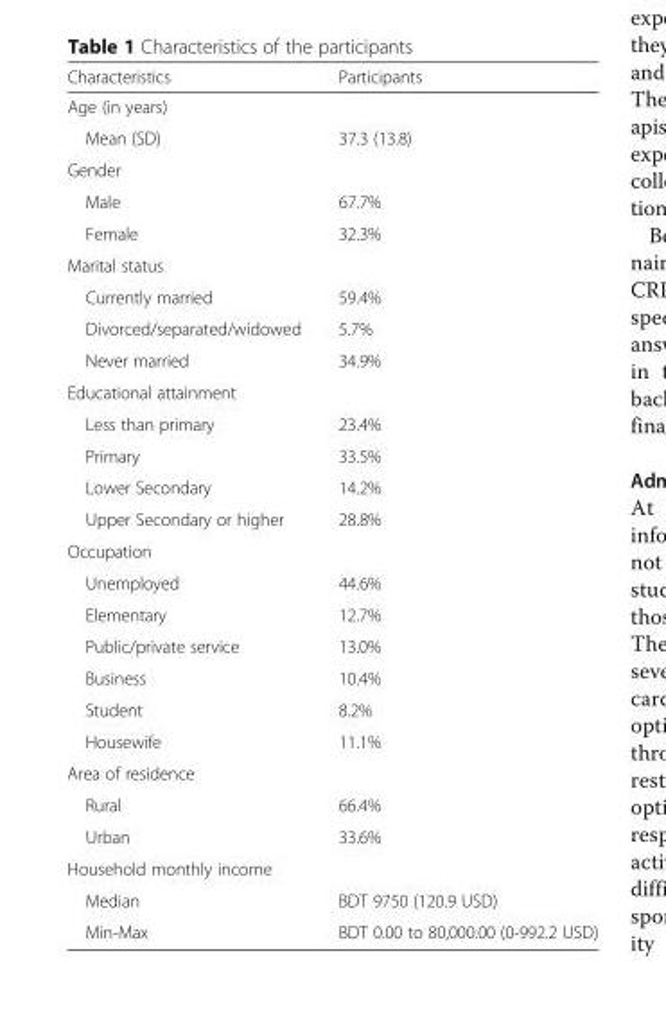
<table><thead><tr><td>Characteristics</td><td>Participants</td></tr></thead><tbody><tr><td colspan="2">Age (in years)</td></tr><tr><td>Mean (SD)</td><td>37.3 (13.8)</td></tr><tr><td colspan="2">Gender</td></tr><tr><td>Male</td><td>67.7%</td></tr><tr><td>Female</td><td>32.3%</td></tr><tr><td colspan="2">Marital status</td></tr><tr><td>Currently married</td><td>59.4%</td></tr><tr><td>Divorced/separated/widowed</td><td>5.7%</td></tr><tr><td>Never married</td><td>34.9%</td></tr><tr><td colspan="2">Educational attainment</td></tr><tr><td>Less than primary</td><td>23.4%</td></tr><tr><td>Primary</td><td>33.5%</td></tr><tr><td>Lower Secondary</td><td>14.2%</td></tr><tr><td>Upper Secondary or higher</td><td>28.8%</td></tr><tr><td colspan="2">Occupation</td></tr><tr><td>Unemployed</td><td>44.6%</td></tr><tr><td>Elementary</td><td>12.7%</td></tr><tr><td>Public/private service</td><td>13.0%</td></tr><tr><td>Business</td><td>10.4%</td></tr><tr><td>Student</td><td>8.2%</td></tr><tr><td>Housewife</td><td>11.1%</td></tr><tr><td colspan="2">Area of residence</td></tr><tr><td>Rural</td><td>66.4%</td></tr><tr><td>Urban</td><td>33.6%</td></tr><tr><td colspan="2">Household monthly income</td></tr><tr><td>Median</td><td>BDT 9750 (120.9 USD)</td></tr><tr><td>Min-Max</td><td>BDT 0.00 to 80,000.00 (0-992.2 USD)</td></tr></tbody></table>